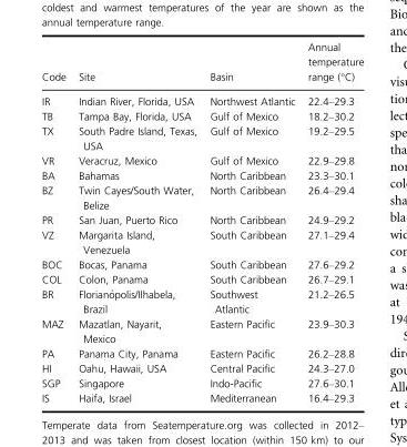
<table><thead><tr><td>Code</td><td>Site</td><td>Basin</td><td>Annual temperature range (°C)</td></tr></thead><tbody><tr><td>IR</td><td>Indian River, Florida, USA</td><td>Northwest Atlantic</td><td>22.4–29.3</td></tr><tr><td>TB</td><td>Tampa Bay, Florida, USA</td><td>Gulf of Mexico</td><td>18.2–30.2</td></tr><tr><td>TX</td><td>South Padre Island, Texas, USA</td><td>Gulf of Mexico</td><td>19.2–29.5</td></tr><tr><td>VR</td><td>Veracruz, Mexico</td><td>Gulf of Mexico</td><td>22.9–29.8</td></tr><tr><td>BA</td><td>Bahamas</td><td>North Caribbean</td><td>23.3–30.1</td></tr><tr><td>BZ</td><td>Twin Cayes/South Water, Belize</td><td>North Caribbean</td><td>26.4–29.4</td></tr><tr><td>PR</td><td>San Juan, Puerto Rico</td><td>North Caribbean</td><td>24.9–29.2</td></tr><tr><td>VZ</td><td>Margarita Island, Venezuela</td><td>South Caribbean</td><td>27.1–29.4</td></tr><tr><td>BOC</td><td>Bocas, Panama</td><td>South Caribbean</td><td>27.6–29.2</td></tr><tr><td>COL</td><td>Colon, Panama</td><td>South Caribbean</td><td>26.7–29.1</td></tr><tr><td>BR</td><td>Florian�opolis/Ilhabela, Brazil</td><td>Southwest Atlantic</td><td>21.2–26.5</td></tr><tr><td>MAZ</td><td>Mazatlan, Nayarit, Mexico</td><td>Eastern Pacific</td><td>23.9–30.3</td></tr><tr><td>PA</td><td>Panama City, Panama</td><td>Eastern Pacific</td><td>26.2–28.8</td></tr><tr><td>HI</td><td>Oahu, Hawaii, USA</td><td>Central Pacific</td><td>24.3–27.0</td></tr><tr><td>SGP</td><td>Singapore</td><td>Indo-Pacific</td><td>27.6–30.1</td></tr><tr><td>IS</td><td>Haifa, Israel</td><td>Mediterranean</td><td>16.4–29.3</td></tr></tbody></table>